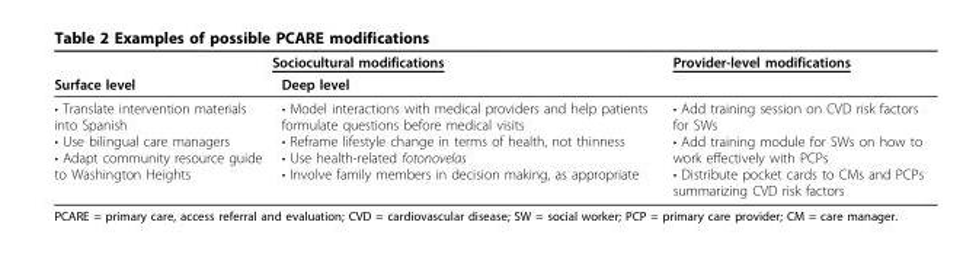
<table><thead><tr><td colspan="2">Sociocultural modifications</td><td rowspan="2">Provider-level modifications</td></tr><tr><td>Surface level</td><td>Deep level</td></tr></thead><tbody><tr><td>• Translate intervention materials into Spanish • Use bilingual care managers • Adapt community resource guide to Washington Heights</td><td>• Model interactions with medical providers and help patients formulate questions before medical visits • Reframe lifestyle change in terms of health, not thinness • Use health-related fotonovelas • Involve family members in decision making, as appropriate</td><td>• Add training session on CVD risk factors for SWs • Add training module for SWs on how to work effectively with PCPs • Distribute pocket cards to CMs and PCPs summarizing CVD risk factors</td></tr></tbody></table>